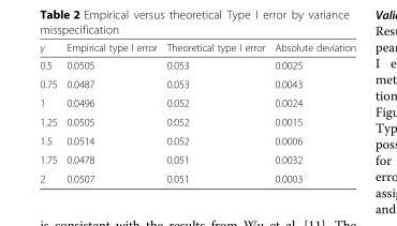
<table><thead><tr><td>γ</td><td>Empirical type I error</td><td>Theoretical type I error</td><td>Absolute deviation</td></tr></thead><tbody><tr><td>0.5</td><td>0.0505</td><td>0.053</td><td>0.0025</td></tr><tr><td>0.75</td><td>0.0487</td><td>0.053</td><td>0.0043</td></tr><tr><td>1</td><td>0.0496</td><td>0.052</td><td>0.0024</td></tr><tr><td>1.25</td><td>0.0505</td><td>0.052</td><td>0.0015</td></tr><tr><td>1.5</td><td>0.0514</td><td>0.052</td><td>0.0006</td></tr><tr><td>1.75</td><td>0.0478</td><td>0.051</td><td>0.0032</td></tr><tr><td>2</td><td>0.0507</td><td>0.051</td><td>0.0003</td></tr></tbody></table>